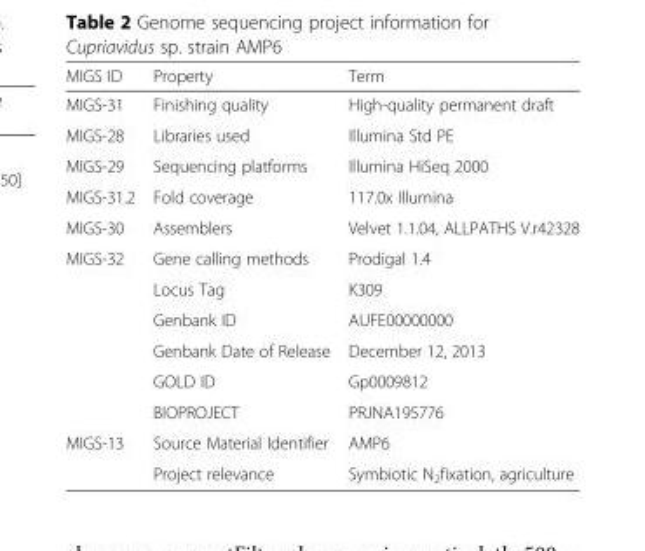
<table><thead><tr><td>MIGS ID</td><td>Property</td><td>Term</td></tr></thead><tbody><tr><td>MIGS-31</td><td>Finishing quality</td><td>High-quality permanent draft</td></tr><tr><td>MIGS-28</td><td>Libraries used</td><td>Illumina Std PE</td></tr><tr><td>MIGS-29</td><td>Sequencing platforms</td><td>Illumina HiSeq 2000</td></tr><tr><td>MIGS-31.2</td><td>Fold coverage</td><td>117.0x Illumina</td></tr><tr><td>MIGS-30</td><td>Assemblers</td><td>Velvet 1.1.04, ALLPATHS V.r42328</td></tr><tr><td rowspan="6">MIGS-32</td><td>Gene calling methods</td><td>Prodigal 1.4</td></tr><tr><td>Locus Tag</td><td>K309</td></tr><tr><td>Genbank ID</td><td>AUFE00000000</td></tr><tr><td>Genbank Date of Release</td><td>December 12, 2013</td></tr><tr><td>GOLD ID</td><td>Gp0009812</td></tr><tr><td>BIOPROJECT</td><td>PRJNA195776</td></tr><tr><td rowspan="2">MIGS-13</td><td>Source Material Identifier</td><td>AMP6</td></tr><tr><td>Project relevance</td><td>Symbiotic N<sub>2</sub>fixation, agriculture</td></tr></tbody></table>